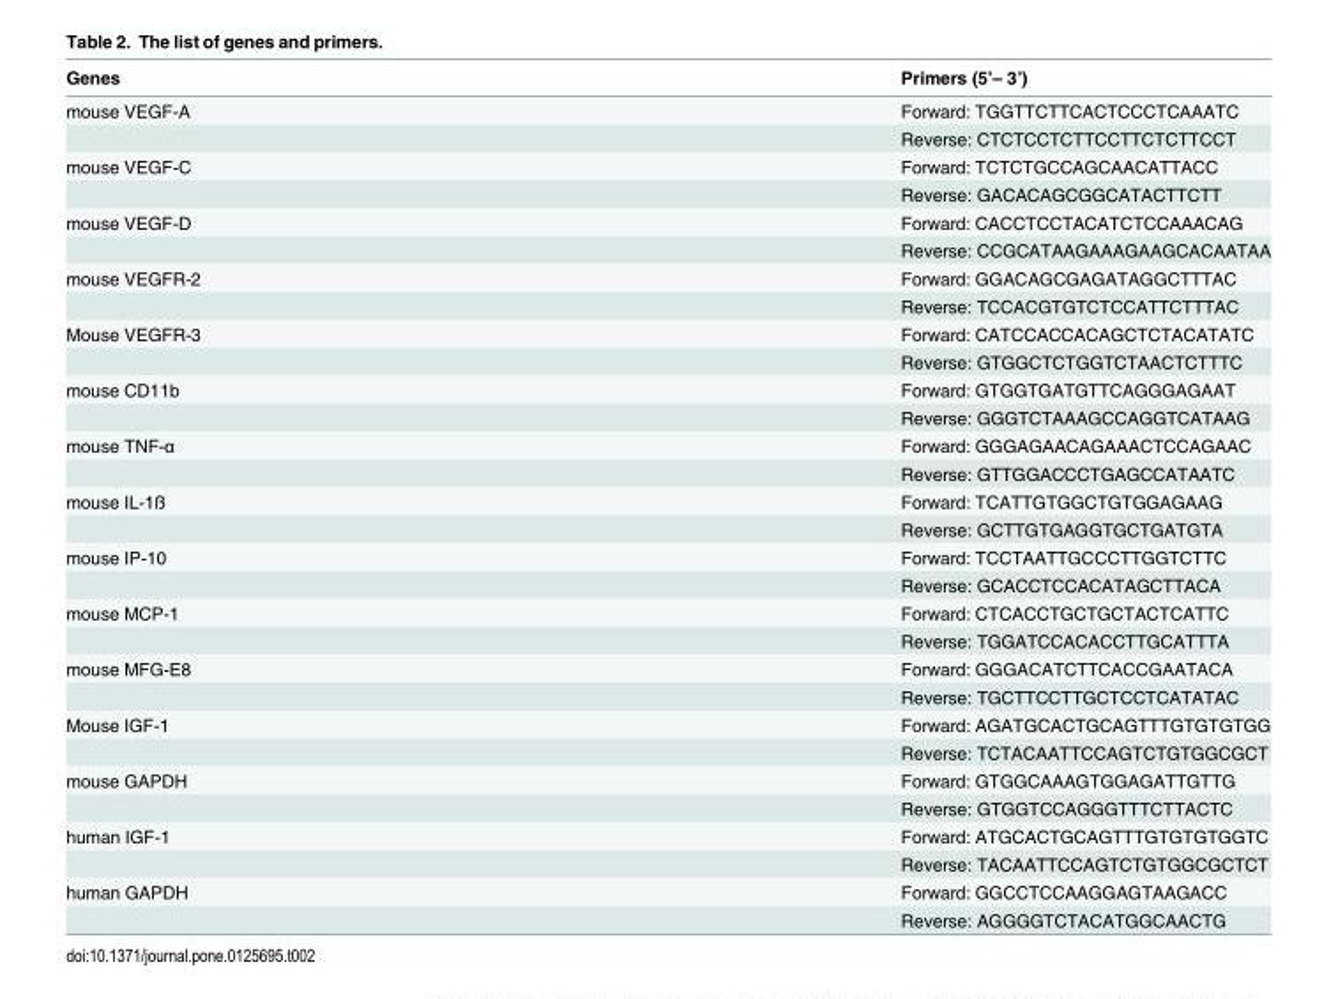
<table><thead><tr><td>Genes</td><td>Primers (5’– 3’)</td></tr></thead><tbody><tr><td rowspan="2">mouse VEGF-A</td><td>Forward: TGGTTCTTCACTCCCTCAAATC</td></tr><tr><td>Reverse: CTCTCCTCTTCCTTCTCTTCCT</td></tr><tr><td rowspan="2">mouse VEGF-C</td><td>Forward: TCTCTGCCAGCAACATTACC</td></tr><tr><td>Reverse: GACACAGCGGCATACTTCTT</td></tr><tr><td rowspan="2">mouse VEGF-D</td><td>Forward: CACCTCCTACATCTCCAAACAG</td></tr><tr><td>Reverse: CCGCATAAGAAAGAAGCACAATAA</td></tr><tr><td rowspan="2">mouse VEGFR-2</td><td>Forward: GGACAGCGAGATAGGCTTTAC</td></tr><tr><td>Reverse: TCCACGTGTCTCCATTCTTTAC</td></tr><tr><td rowspan="2">Mouse VEGFR-3</td><td>Forward: CATCCACCACAGCTCTACATATC</td></tr><tr><td>Reverse: GTGGCTCTGGTCTAACTCTTTC</td></tr><tr><td rowspan="2">mouse CD11b</td><td>Forward: GTGGTGATGTTCAGGGAGAAT</td></tr><tr><td>Reverse: GGGTCTAAAGCCAGGTCATAAG</td></tr><tr><td rowspan="2">mouse TNF-α</td><td>Forward: GGGAGAACAGAAACTCCAGAAC</td></tr><tr><td>Reverse: GTTGGACCCTGAGCCATAATC</td></tr><tr><td rowspan="2">mouse IL-1ß</td><td>Forward: TCATTGTGGCTGTGGAGAAG</td></tr><tr><td>Reverse: GCTTGTGAGGTGCTGATGTA</td></tr><tr><td rowspan="2">mouse IP-10</td><td>Forward: TCCTAATTGCCCTTGGTCTTC</td></tr><tr><td>Reverse: GCACCTCCACATAGCTTACA</td></tr><tr><td rowspan="2">mouse MCP-1</td><td>Forward: CTCACCTGCTGCTACTCATTC</td></tr><tr><td>Reverse: TGGATCCACACCTTGCATTTA</td></tr><tr><td rowspan="2">mouse MFG-E8</td><td>Forward: GGGACATCTTCACCGAATACA</td></tr><tr><td>Reverse: TGCTTCCTTGCTCCTCATATAC</td></tr><tr><td rowspan="2">Mouse IGF-1</td><td>Forward: AGATGCACTGCAGTTTGTGTGTGG</td></tr><tr><td>Reverse: TCTACAATTCCAGTCTGTGGCGCT</td></tr><tr><td rowspan="2">mouse GAPDH</td><td>Forward: GTGGCAAAGTGGAGATTGTTG</td></tr><tr><td>Reverse: GTGGTCCAGGGTTTCTTACTC</td></tr><tr><td rowspan="2">human IGF-1</td><td>Forward: ATGCACTGCAGTTTGTGTGTGGTC</td></tr><tr><td>Reverse: TACAATTCCAGTCTGTGGCGCTCT</td></tr><tr><td rowspan="2">human GAPDH</td><td>Forward: GGCCTCCAAGGAGTAAGACC</td></tr><tr><td>Reverse: AGGGGTCTACATGGCAACTG</td></tr></tbody></table>